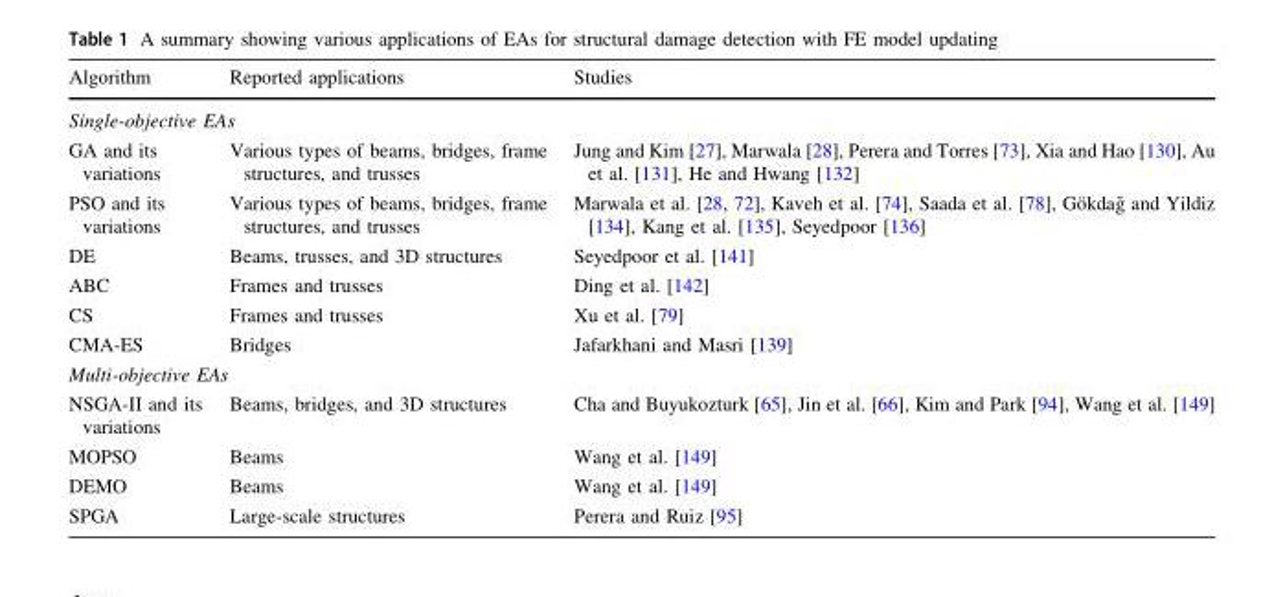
<table><thead><tr><td>Algorithm</td><td>Reported applications</td><td>Studies</td></tr></thead><tbody><tr><td colspan="3">Single-objective EAs</td></tr><tr><td>GA and its variations</td><td>Various types of beams, bridges, frame structures, and trusses</td><td>Jung and Kim [27], Marwala [28], Perera and Torres [73], Xia and Hao [130], Au et al. [131], He and Hwang [132]</td></tr><tr><td>PSO and its variations</td><td>Various types of beams, bridges, frame structures, and trusses</td><td>Marwala et al. [28, 72], Kaveh et al. [74], Saada et al. [78], Go¨kdag˘ and Yildiz [134], Kang et al. [135], Seyedpoor [136]</td></tr><tr><td>DE</td><td>Beams, trusses, and 3D structures</td><td>Seyedpoor et al. [141]</td></tr><tr><td>ABC</td><td>Frames and trusses</td><td>Ding et al. [142]</td></tr><tr><td>CS</td><td>Frames and trusses</td><td>Xu et al. [79]</td></tr><tr><td>CMA-ES</td><td>Bridges</td><td>Jafarkhani and Masri [139]</td></tr><tr><td colspan="3">Multi-objective EAs</td></tr><tr><td>NSGA-II and its variations</td><td>Beams, bridges, and 3D structures</td><td>Cha and Buyukozturk [65], Jin et al. [66], Kim and Park [94], Wang et al. [149]</td></tr><tr><td>MOPSO</td><td>Beams</td><td>Wang et al. [149]</td></tr><tr><td>DEMO</td><td>Beams</td><td>Wang et al. [149]</td></tr><tr><td>SPGA</td><td>Large-scale structures</td><td>Perera and Ruiz [95]</td></tr></tbody></table>